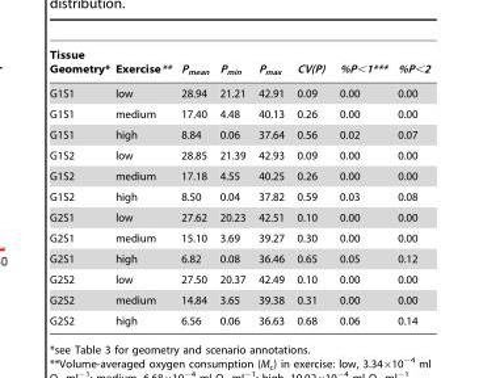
<table><thead><tr><td>Tissue Geometry*</td><td>Exercise**</td><td>P<sub>mean</sub></td><td>P<sub>min</sub></td><td>P<sub>max</sub></td><td>CV(P)</td><td>%P&lt;1***</td><td>%P&lt;2</td></tr></thead><tbody><tr><td>G1S1</td><td>low</td><td>28.94</td><td>21.21</td><td>42.91</td><td>0.09</td><td>0.00</td><td>0.00</td></tr><tr><td>G1S1</td><td>medium</td><td>17.40</td><td>4.48</td><td>40.13</td><td>0.26</td><td>0.00</td><td>0.00</td></tr><tr><td>G1S1</td><td>high</td><td>8.84</td><td>0.06</td><td>37.64</td><td>0.56</td><td>0.02</td><td>0.07</td></tr><tr><td>G1S2</td><td>low</td><td>28.85</td><td>21.39</td><td>42.93</td><td>0.09</td><td>0.00</td><td>0.00</td></tr><tr><td>G1S2</td><td>medium</td><td>17.18</td><td>4.55</td><td>40.25</td><td>0.26</td><td>0.00</td><td>0.00</td></tr><tr><td>G1S2</td><td>high</td><td>8.50</td><td>0.04</td><td>37.82</td><td>0.59</td><td>0.03</td><td>0.08</td></tr><tr><td>G2S1</td><td>low</td><td>27.62</td><td>20.23</td><td>42.51</td><td>0.10</td><td>0.00</td><td>0.00</td></tr><tr><td>G2S1</td><td>medium</td><td>15.10</td><td>3.69</td><td>39.27</td><td>0.30</td><td>0.00</td><td>0.00</td></tr><tr><td>G2S1</td><td>high</td><td>6.82</td><td>0.08</td><td>36.46</td><td>0.65</td><td>0.05</td><td>0.12</td></tr><tr><td>G2S2</td><td>low</td><td>27.50</td><td>20.37</td><td>42.49</td><td>0.10</td><td>0.00</td><td>0.00</td></tr><tr><td>G2S2</td><td>medium</td><td>14.84</td><td>3.65</td><td>39.38</td><td>0.31</td><td>0.00</td><td>0.00</td></tr><tr><td>G2S2</td><td>high</td><td>6.56</td><td>0.06</td><td>36.63</td><td>0.68</td><td>0.06</td><td>0.14</td></tr></tbody></table>